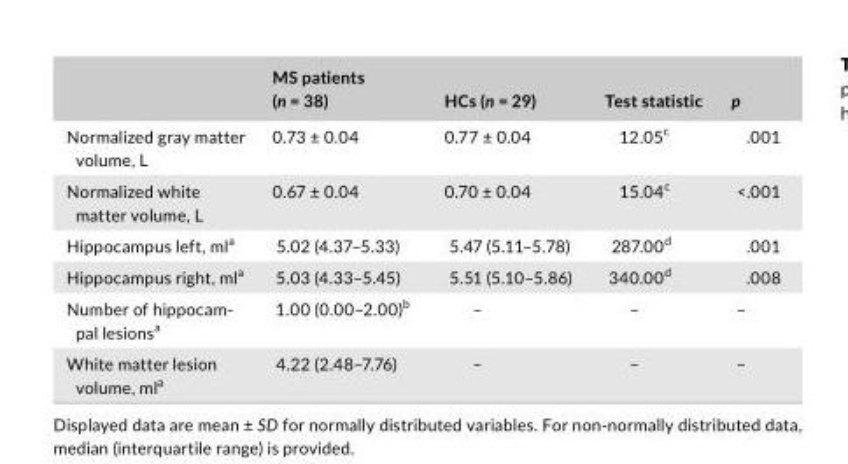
<table><thead><tr><td></td><td>MS patients (n = 38)</td><td>HCs (n = 29)</td><td>Test statistic</td><td>p</td></tr></thead><tbody><tr><td>Normalized gray matter volume, L</td><td>0.73 ± 0.04</td><td>0.77 ± 0.04</td><td>12.05<sup>c</sup></td><td>.001</td></tr><tr><td>Normalized white matter volume, L</td><td>0.67 ± 0.04</td><td>0.70 ± 0.04</td><td>15.04<sup>c</sup></td><td>&lt;.001</td></tr><tr><td>Hippocampus left, ml<sup>a</sup></td><td>5.02 (4.37–5.33)</td><td>5.47 (5.11–5.78)</td><td>287.00<sup>d</sup></td><td>.001</td></tr><tr><td>Hippocampus right, ml<sup>a</sup></td><td>5.03 (4.33–5.45)</td><td>5.51 (5.10–5.86)</td><td>340.00<sup>d</sup></td><td>.008</td></tr><tr><td>Number of hippocam- pal lesionsa</td><td>1.00 (0.00–2.00)<sup>b</sup></td><td>–</td><td>–</td><td>–</td></tr><tr><td>White matter lesion volume, ml<sup>a</sup></td><td>4.22 (2.48–7.76)</td><td>–</td><td>–</td><td>–</td></tr></tbody></table>